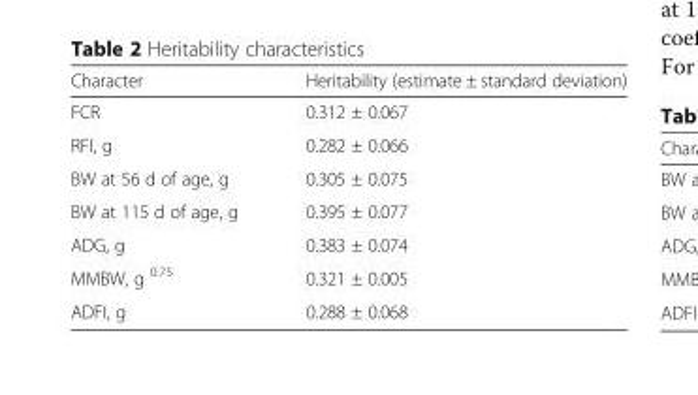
<table><thead><tr><td>Character</td><td>Heritability (estimate ± standard deviation)</td></tr></thead><tbody><tr><td>FCR</td><td>0.312 ± 0.067</td></tr><tr><td>RFI, g</td><td>0.282 ± 0.066</td></tr><tr><td>BW at 56 d of age, g</td><td>0.305 ± 0.075</td></tr><tr><td>BW at 115 d of age, g</td><td>0.395 ± 0.077</td></tr><tr><td>ADG, g</td><td>0.383 ± 0.074</td></tr><tr><td>MMBW, g <sup>0.75</sup></td><td>0.321 ± 0.005</td></tr><tr><td>ADFI, g</td><td>0.288 ± 0.068</td></tr></tbody></table>